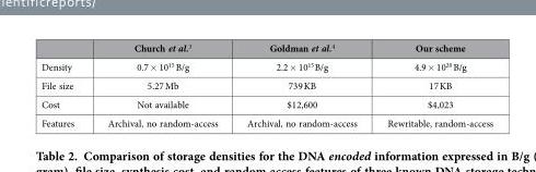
<table><thead><tr><td></td><td>Church et al.<sup>3</sup></td><td>Goldman et al.<sup>4</sup></td><td>Our scheme</td></tr></thead><tbody><tr><td>Density</td><td>0.7 × 10<sup>15</sup> B/g</td><td>2.2 × 10<sup>15</sup> B/g</td><td>4.9 × 10<sup>20</sup> B/g</td></tr><tr><td>File size</td><td>5.27 Mb</td><td>739 KB</td><td>17 KB</td></tr><tr><td>Cost</td><td>Not available</td><td>$12,600</td><td>$4,023</td></tr><tr><td>Features</td><td>Archival, no random-access</td><td>Archival, no random-access</td><td>Rewritable, random-access</td></tr></tbody></table>